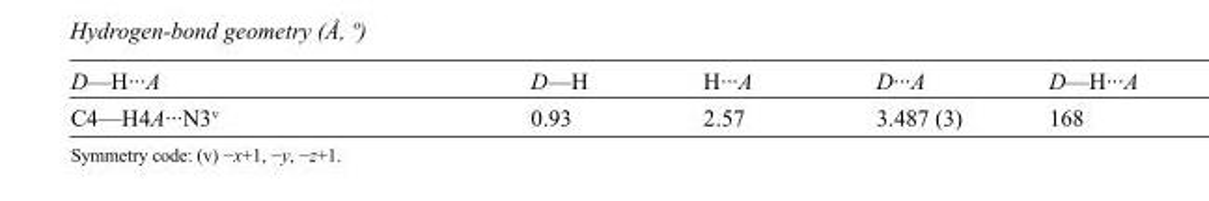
<table><tbody><tr><td>D—H···A</td><td>D—H</td><td>H···A</td><td>D···A</td><td>D—H···A</td></tr><tr><td>C4—H4A···N3<sup>v</sup></td><td>0.93</td><td>2.57</td><td>3.487 (3)</td><td>168</td></tr></tbody></table>